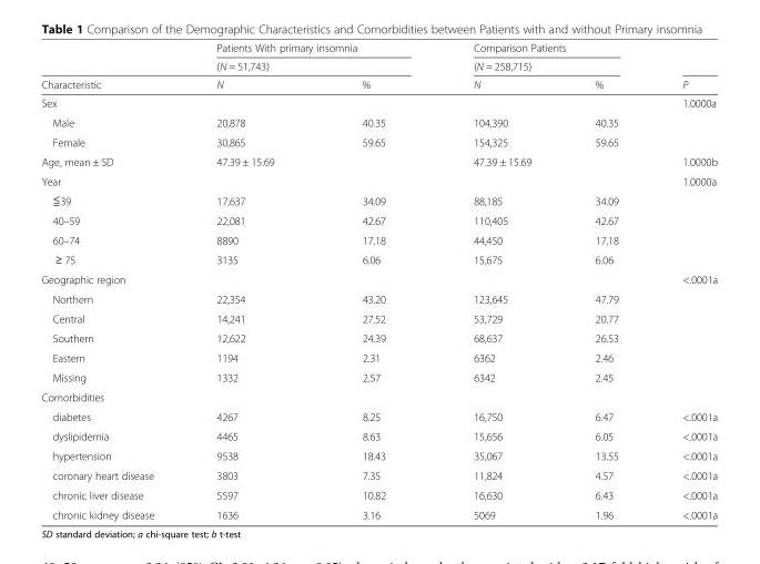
<table><thead><tr><td rowspan="3">Characteristic</td><td rowspan="2" colspan="2">Patients With primary insomnia (N = 51,743)</td><td rowspan="2" colspan="2">Comparison Patients (N = 258,715)</td><td rowspan="3">P</td></tr><tr></tr><tr><td>N</td><td>%</td><td>N</td><td>%</td></tr></thead><tbody><tr><td>Sex</td><td></td><td></td><td></td><td></td><td>1.0000a</td></tr><tr><td>Male</td><td>20,878</td><td>40.35</td><td>104,390</td><td>40.35</td><td></td></tr><tr><td>Female</td><td>30,865</td><td>59.65</td><td>154,325</td><td>59.65</td><td></td></tr><tr><td>Age, mean ± SD</td><td>47.39 ± 15.69</td><td></td><td>47.39 ± 15.69</td><td></td><td>1.0000b</td></tr><tr><td>Year</td><td></td><td></td><td></td><td></td><td>1.0000a</td></tr><tr><td>≦39</td><td>17,637</td><td>34.09</td><td>88,185</td><td>34.09</td><td></td></tr><tr><td>40–59</td><td>22,081</td><td>42.67</td><td>110,405</td><td>42.67</td><td></td></tr><tr><td>60–74</td><td>8890</td><td>17.18</td><td>44,450</td><td>17.18</td><td></td></tr><tr><td>≥ 75</td><td>3135</td><td>6.06</td><td>15,675</td><td>6.06</td><td></td></tr><tr><td>Geographic region</td><td></td><td></td><td></td><td></td><td>&lt;.0001a</td></tr><tr><td>Northern</td><td>22,354</td><td>43.20</td><td>123,645</td><td>47.79</td><td></td></tr><tr><td>Central</td><td>14,241</td><td>27.52</td><td>53,729</td><td>20.77</td><td></td></tr><tr><td>Southern</td><td>12,622</td><td>24.39</td><td>68,637</td><td>26.53</td><td></td></tr><tr><td>Eastern</td><td>1194</td><td>2.31</td><td>6362</td><td>2.46</td><td></td></tr><tr><td>Missing</td><td>1332</td><td>2.57</td><td>6342</td><td>2.45</td><td></td></tr><tr><td colspan="6">Comorbidities</td></tr><tr><td>diabetes</td><td>4267</td><td>8.25</td><td>16,750</td><td>6.47</td><td>&lt;.0001a</td></tr><tr><td>dyslipidemia</td><td>4465</td><td>8.63</td><td>15,656</td><td>6.05</td><td>&lt;.0001a</td></tr><tr><td>hypertension</td><td>9538</td><td>18.43</td><td>35,067</td><td>13.55</td><td>&lt;.0001a</td></tr><tr><td>coronary heart disease</td><td>3803</td><td>7.35</td><td>11,824</td><td>4.57</td><td>&lt;.0001a</td></tr><tr><td>chronic liver disease</td><td>5597</td><td>10.82</td><td>16,630</td><td>6.43</td><td>&lt;.0001a</td></tr><tr><td>chronic kidney disease</td><td>1636</td><td>3.16</td><td>5069</td><td>1.96</td><td>&lt;.0001a</td></tr></tbody></table>